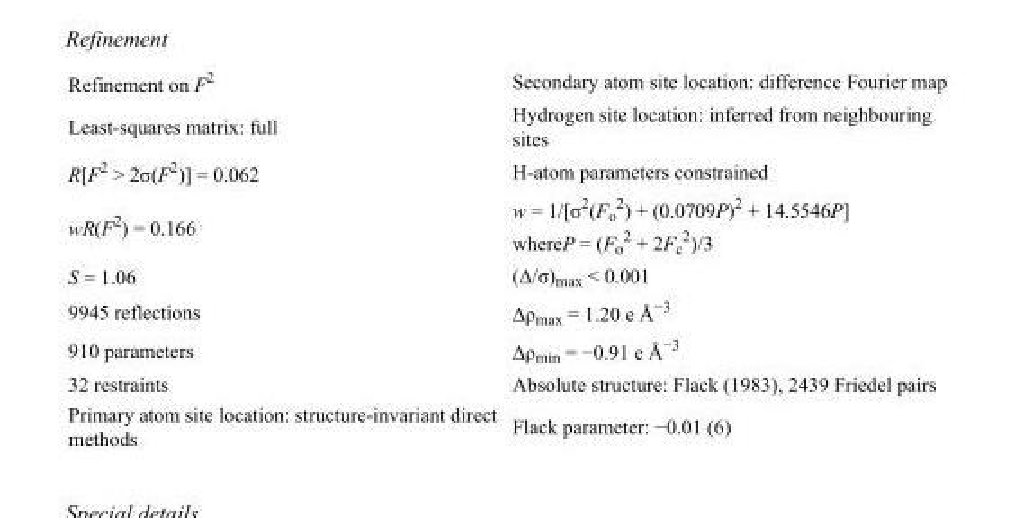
<table><tbody><tr><td>Refinement on F<sup>2</sup></td><td>Secondary atom site location: difference Fourier map</td></tr><tr><td>Least-squares matrix: full</td><td>Hydrogen site location: inferred from neighbouring sites</td></tr><tr><td>R[F<sup>2</sup> &gt; 2σ(F<sup>2</sup>)] = 0.062</td><td>H-atom parameters constrained</td></tr><tr><td>wR(F<sup>2</sup>) = 0.166</td><td>w = 1/[σ<sup>2</sup>(F<sub>o</sub> <sup>2</sup>) + (0.0709P)<sup>2</sup> + 14.5546P] whereP = (F<sub>o</sub> <sup>2</sup> + 2F<sub>c</sub> <sup>2</sup>)/3</td></tr><tr><td>S = 1.06</td><td>(Δ/σ)<sub>max</sub> &lt; 0.001</td></tr><tr><td>9945 reflections</td><td>Δρ<sub>max</sub> = 1.20 e Å<sup>−3</sup></td></tr><tr><td>910 parameters</td><td>Δρ<sub>min</sub> = −0.91 e Å<sup>−3</sup></td></tr><tr><td>32 restraints</td><td>Absolute structure: Flack (1983), 2439 Friedel pairs</td></tr><tr><td>Primary atom site location: structure-invariant direct methods</td><td>Flack parameter: −0.01 (6)</td></tr></tbody></table>